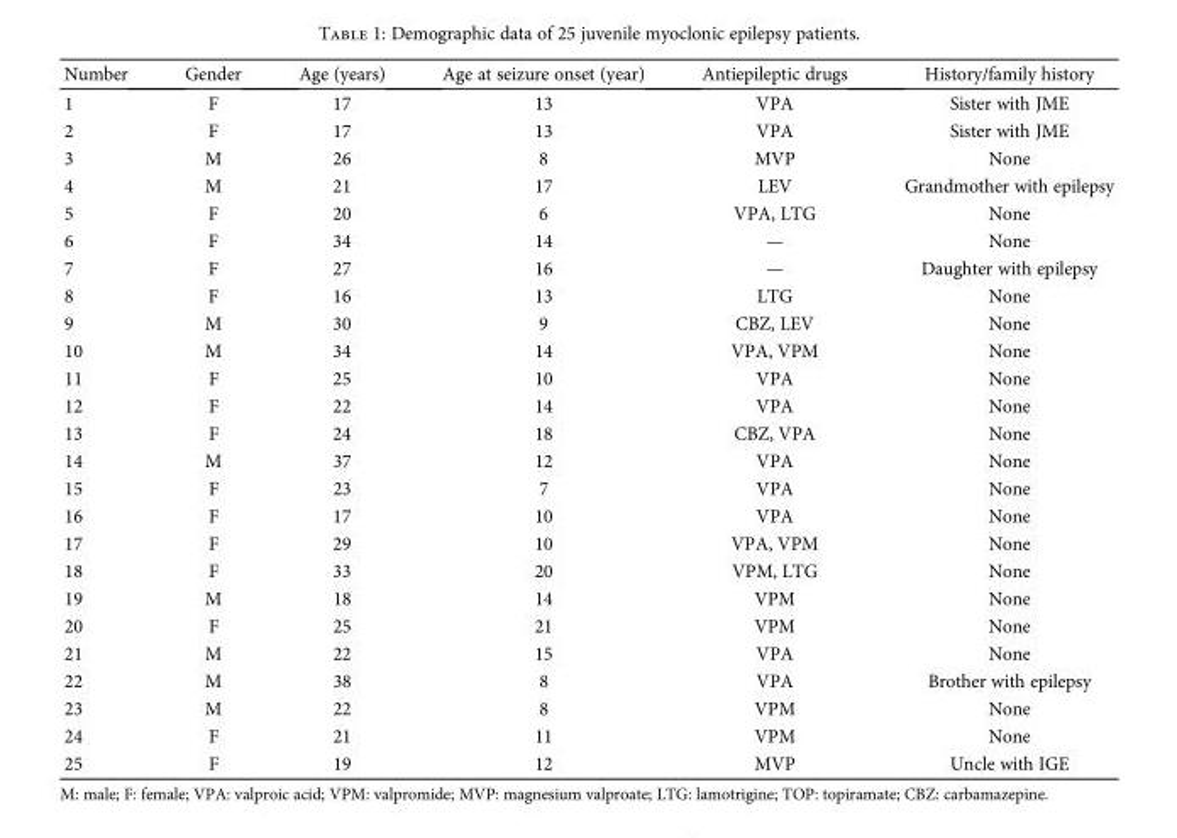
<table><thead><tr><td>Number</td><td>Gender</td><td>Age (years)</td><td>Age at seizure onset (year)</td><td>Antiepileptic drugs</td><td>History/family history</td></tr></thead><tbody><tr><td>1</td><td>F</td><td>17</td><td>13</td><td>VPA</td><td>Sister with JME</td></tr><tr><td>2</td><td>F</td><td>17</td><td>13</td><td>VPA</td><td>Sister with JME</td></tr><tr><td>3</td><td>M</td><td>26</td><td>8</td><td>MVP</td><td>None</td></tr><tr><td>4</td><td>M</td><td>21</td><td>17</td><td>LEV</td><td>Grandmother with epilepsy</td></tr><tr><td>5</td><td>F</td><td>20</td><td>6</td><td>VPA, LTG</td><td>None</td></tr><tr><td>6</td><td>F</td><td>34</td><td>14</td><td>—</td><td>None</td></tr><tr><td>7</td><td>F</td><td>27</td><td>16</td><td>—</td><td>Daughter with epilepsy</td></tr><tr><td>8</td><td>F</td><td>16</td><td>13</td><td>LTG</td><td>None</td></tr><tr><td>9</td><td>M</td><td>30</td><td>9</td><td>CBZ, LEV</td><td>None</td></tr><tr><td>10</td><td>M</td><td>34</td><td>14</td><td>VPA, VPM</td><td>None</td></tr><tr><td>11</td><td>F</td><td>25</td><td>10</td><td>VPA</td><td>None</td></tr><tr><td>12</td><td>F</td><td>22</td><td>14</td><td>VPA</td><td>None</td></tr><tr><td>13</td><td>F</td><td>24</td><td>18</td><td>CBZ, VPA</td><td>None</td></tr><tr><td>14</td><td>M</td><td>37</td><td>12</td><td>VPA</td><td>None</td></tr><tr><td>15</td><td>F</td><td>23</td><td>7</td><td>VPA</td><td>None</td></tr><tr><td>16</td><td>F</td><td>17</td><td>10</td><td>VPA</td><td>None</td></tr><tr><td>17</td><td>F</td><td>29</td><td>10</td><td>VPA, VPM</td><td>None</td></tr><tr><td>18</td><td>F</td><td>33</td><td>20</td><td>VPM, LTG</td><td>None</td></tr><tr><td>19</td><td>M</td><td>18</td><td>14</td><td>VPM</td><td>None</td></tr><tr><td>20</td><td>F</td><td>25</td><td>21</td><td>VPM</td><td>None</td></tr><tr><td>21</td><td>M</td><td>22</td><td>15</td><td>VPA</td><td>None</td></tr><tr><td>22</td><td>M</td><td>38</td><td>8</td><td>VPA</td><td>Brother with epilepsy</td></tr><tr><td>23</td><td>M</td><td>22</td><td>8</td><td>VPM</td><td>None</td></tr><tr><td>24</td><td>F</td><td>21</td><td>11</td><td>VPM</td><td>None</td></tr><tr><td>25</td><td>F</td><td>19</td><td>12</td><td>MVP</td><td>Uncle with IGE</td></tr></tbody></table>